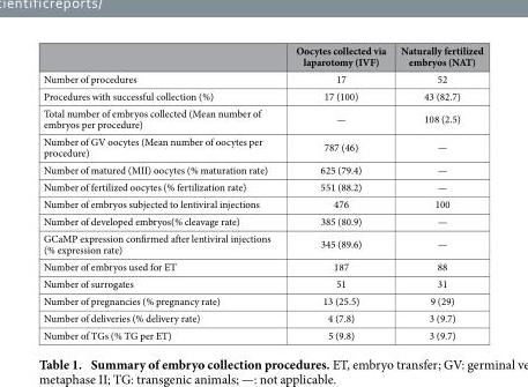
<table><thead><tr><td></td><td>Oocytes collected via laparotomy (IVF)</td><td>Naturally fertilized embryos (NAT)</td></tr></thead><tbody><tr><td>Number of procedures</td><td>17</td><td>52</td></tr><tr><td>Procedures with successful collection (%)</td><td>17 (100)</td><td>43 (82.7)</td></tr><tr><td>Total number of embryos collected (Mean number of embryos per procedure)</td><td>—</td><td>108 (2.5)</td></tr><tr><td>Number of GV oocytes (Mean number of oocytes per procedure)</td><td>787 (46)</td><td>—</td></tr><tr><td>Number of matured (MII) oocytes (% maturation rate)</td><td>625 (79.4)</td><td>—</td></tr><tr><td>Number of fertilized oocytes (% fertilization rate)</td><td>551 (88.2)</td><td>—</td></tr><tr><td>Number of embryos subjected to lentiviral injections</td><td>476</td><td>100</td></tr><tr><td>Number of developed embryos(% cleavage rate)</td><td>385 (80.9)</td><td>—</td></tr><tr><td>GCaMP expression confirmed after lentiviral injections (% expression rate)</td><td>345 (89.6)</td><td>—</td></tr><tr><td>Number of embryos used for ET</td><td>187</td><td>88</td></tr><tr><td>Number of surrogates</td><td>51</td><td>31</td></tr><tr><td>Number of pregnancies (% pregnancy rate)</td><td>13 (25.5)</td><td>9 (29)</td></tr><tr><td>Number of deliveries (% delivery rate)</td><td>4 (7.8)</td><td>3 (9.7)</td></tr><tr><td>Number of TGs (% TG per ET)</td><td>5 (9.8)</td><td>3 (9.7)</td></tr></tbody></table>